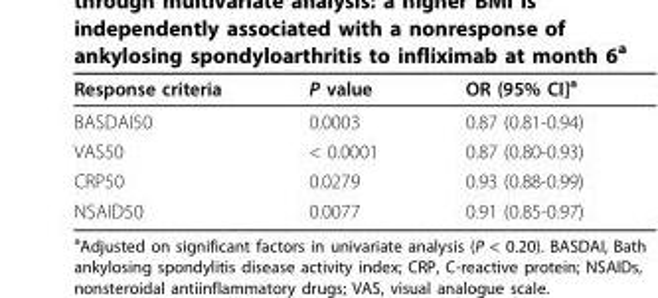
<table><thead><tr><td>Response criteria</td><td>P value</td><td>OR (95% CI]<sup>a</sup></td></tr></thead><tbody><tr><td>BASDAI50</td><td>0.0003</td><td>0.87 (0.81-0.94)</td></tr><tr><td>VAS50</td><td>&lt; 0.0001</td><td>0.87 (0.80-0.93)</td></tr><tr><td>CRP50</td><td>0.0279</td><td>0.93 (0.88-0.99)</td></tr><tr><td>NSAID50</td><td>0.0077</td><td>0.91 (0.85-0.97)</td></tr></tbody></table>